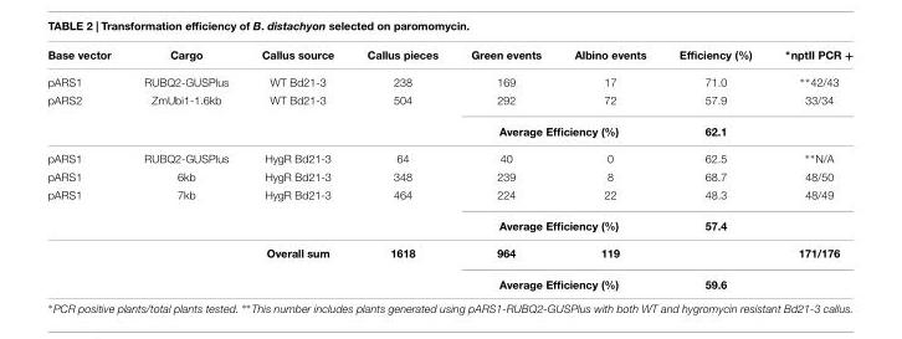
<table><thead><tr><td>Base vector</td><td>Cargo</td><td>Callus source</td><td>Callus pieces</td><td>Green events</td><td>Albino events</td><td>Efficiency (%)</td><td>∗nptII PCR +</td></tr></thead><tbody><tr><td>pARS1</td><td>RUBQ2-GUSPlus</td><td>WT Bd21-3</td><td>238</td><td>169</td><td>17</td><td>71.0</td><td>∗∗42/43</td></tr><tr><td rowspan="2">pARS2</td><td>ZmUbi1-1.6kb</td><td>WT Bd21-3</td><td>504</td><td>292</td><td>72</td><td>57.9</td><td>33/34</td></tr><tr><td></td><td></td><td></td><td colspan="2">Average Efficiency (%)</td><td>62.1</td><td></td></tr><tr><td>pARS1</td><td>RUBQ2-GUSPlus</td><td>HygR Bd21-3</td><td>64</td><td>40</td><td>0</td><td>62.5</td><td>∗∗N/A</td></tr><tr><td>pARS1</td><td>6kb</td><td>HygR Bd21-3</td><td>348</td><td>239</td><td>8</td><td>68.7</td><td>48/50</td></tr><tr><td rowspan="4">pARS1</td><td>7kb</td><td>HygR Bd21-3</td><td>464</td><td>224</td><td>22</td><td>48.3</td><td>48/49</td></tr><tr><td></td><td></td><td></td><td colspan="2">Average Efficiency (%)</td><td>57.4</td><td></td></tr><tr><td></td><td>Overall sum</td><td>1618</td><td>964</td><td>119</td><td></td><td>171/176</td></tr><tr><td></td><td></td><td></td><td colspan="2">Average Efficiency (%)</td><td>59.6</td><td></td></tr></tbody></table>